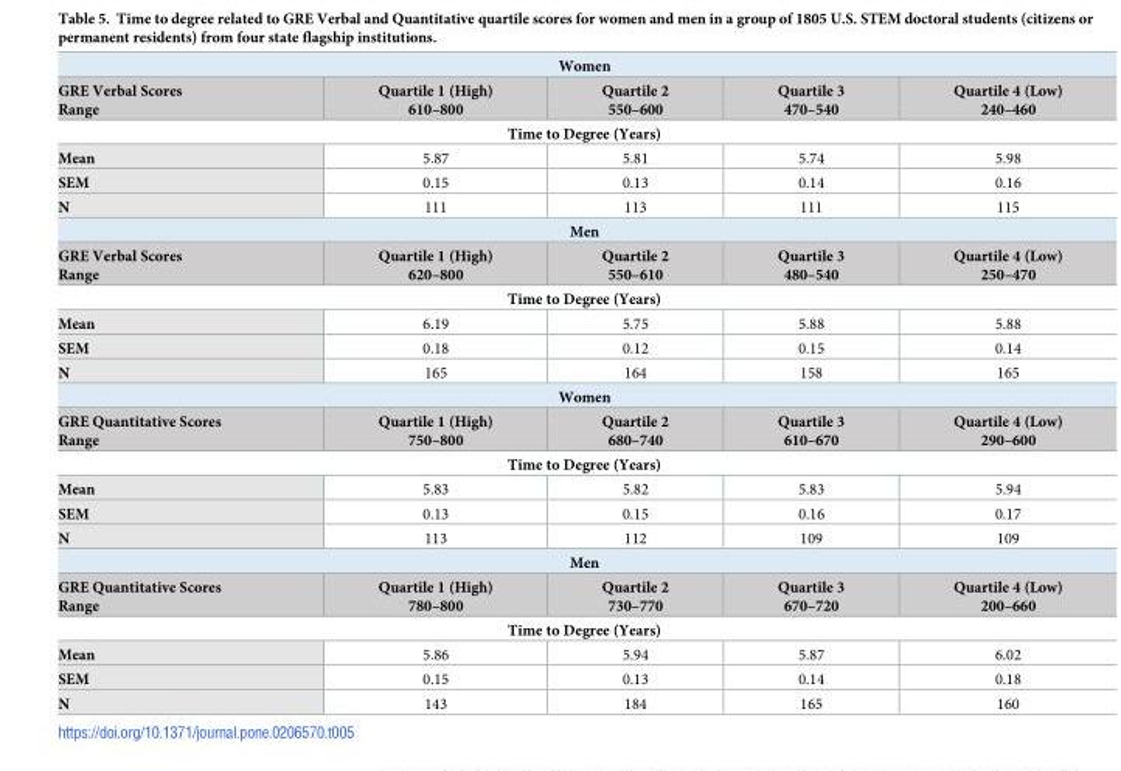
<table><tbody><tr><td colspan="5">Women</td></tr><tr><td>GRE Verbal Scores Range</td><td>Quartile 1 (High) 610–800</td><td>Quartile 2 550–600</td><td>Quartile 3 470–540</td><td>Quartile 4 (Low) 240–460</td></tr><tr><td colspan="5">Time to Degree (Years)</td></tr><tr><td>Mean</td><td>5.87</td><td>5.81</td><td>5.74</td><td>5.98</td></tr><tr><td>SEM</td><td>0.15</td><td>0.13</td><td>0.14</td><td>0.16</td></tr><tr><td>N</td><td>111</td><td>113</td><td>111</td><td>115</td></tr><tr><td colspan="5">Men</td></tr><tr><td>GRE Verbal Scores Range</td><td>Quartile 1 (High) 620–800</td><td>Quartile 2 550–610</td><td>Quartile 3 480–540</td><td>Quartile 4 (Low) 250–470</td></tr><tr><td colspan="5">Time to Degree (Years)</td></tr><tr><td>Mean</td><td>6.19</td><td>5.75</td><td>5.88</td><td>5.88</td></tr><tr><td>SEM</td><td>0.18</td><td>0.12</td><td>0.15</td><td>0.14</td></tr><tr><td>N</td><td>165</td><td>164</td><td>158</td><td>165</td></tr><tr><td colspan="5">Women</td></tr><tr><td>GRE Quantitative Scores Range</td><td>Quartile 1 (High) 750–800</td><td>Quartile 2 680–740</td><td>Quartile 3 610–670</td><td>Quartile 4 (Low) 290–600</td></tr><tr><td colspan="5">Time to Degree (Years)</td></tr><tr><td>Mean</td><td>5.83</td><td>5.82</td><td>5.83</td><td>5.94</td></tr><tr><td>SEM</td><td>0.13</td><td>0.15</td><td>0.16</td><td>0.17</td></tr><tr><td>N</td><td>113</td><td>112</td><td>109</td><td>109</td></tr><tr><td colspan="5">Men</td></tr><tr><td>GRE Quantitative Scores Range</td><td>Quartile 1 (High) 780–800</td><td>Quartile 2 730–770</td><td>Quartile 3 670–720</td><td>Quartile 4 (Low) 200–660</td></tr><tr><td colspan="5">Time to Degree (Years)</td></tr><tr><td>Mean</td><td>5.86</td><td>5.94</td><td>5.87</td><td>6.02</td></tr><tr><td>SEM</td><td>0.15</td><td>0.13</td><td>0.14</td><td>0.18</td></tr><tr><td>N</td><td>143</td><td>184</td><td>165</td><td>160</td></tr></tbody></table>